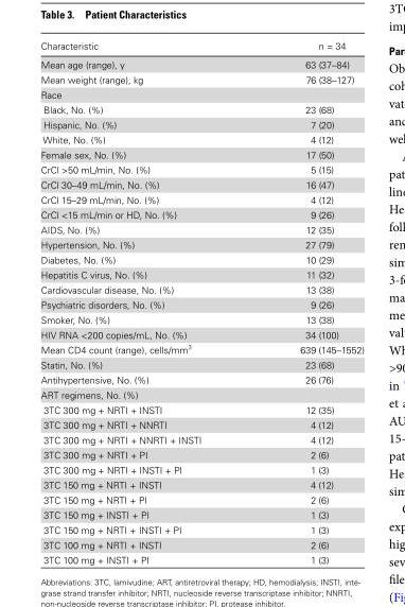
<table><thead><tr><td>Characteristic</td><td>n = 34</td></tr></thead><tbody><tr><td>Mean age (range), y</td><td>63 (37–84)</td></tr><tr><td>Mean weight (range), kg</td><td>76 (38–127)</td></tr><tr><td colspan="2">Race</td></tr><tr><td>Black, No. (%)</td><td>23 (68)</td></tr><tr><td>Hispanic, No. (%)</td><td>7 (20)</td></tr><tr><td>White, No. (%)</td><td>4 (12)</td></tr><tr><td>Female sex, No. (%)</td><td>17 (50)</td></tr><tr><td>CrCl &gt;50 mL/min, No. (%)</td><td>5 (15)</td></tr><tr><td>CrCl 30–49 mL/min, No. (%)</td><td>16 (47)</td></tr><tr><td>CrCl 15–29 mL/min, No. (%)</td><td>4 (12)</td></tr><tr><td>CrCl &lt;15 mL/min or HD, No. (%)</td><td>9 (26)</td></tr><tr><td>AIDS, No. (%)</td><td>12 (35)</td></tr><tr><td>Hypertension, No. (%)</td><td>27 (79)</td></tr><tr><td>Diabetes, No. (%)</td><td>10 (29)</td></tr><tr><td>Hepatitis C virus, No. (%)</td><td>11 (32)</td></tr><tr><td>Cardiovascular disease, No. (%)</td><td>13 (38)</td></tr><tr><td>Psychiatric disorders, No. (%)</td><td>9 (26)</td></tr><tr><td>Smoker, No. (%)</td><td>13 (38)</td></tr><tr><td>HIV RNA &lt;200 copies/mL, No. (%)</td><td>34 (100)</td></tr><tr><td>Mean CD4 count (range), cells/mm<sup>3</sup></td><td>639 (145–1552)</td></tr><tr><td>Statin, No. (%)</td><td>23 (68)</td></tr><tr><td>Antihypertensive, No. (%)</td><td>26 (76)</td></tr><tr><td colspan="2">ART regimens, No. (%)</td></tr><tr><td>3TC 300 mg + NRTI + INSTI</td><td>12 (35)</td></tr><tr><td>3TC 300 mg + NRTI + NNRTI</td><td>4 (12)</td></tr><tr><td>3TC 300 mg + NRTI + NNRTI + INSTI</td><td>4 (12)</td></tr><tr><td>3TC 300 mg + NRTI + PI</td><td>2 (6)</td></tr><tr><td>3TC 300 mg + NRTI + INSTI + PI</td><td>1 (3)</td></tr><tr><td>3TC 150 mg + NRTI + INSTI</td><td>4 (12)</td></tr><tr><td>3TC 150 mg + NRTI + PI</td><td>2 (6)</td></tr><tr><td>3TC 150 mg + INSTI + PI</td><td>1 (3)</td></tr><tr><td>3TC 150 mg + NRTI + INSTI + PI</td><td>1 (3)</td></tr><tr><td>3TC 100 mg + NRTI + INSTI</td><td>2 (6)</td></tr><tr><td>3TC 100 mg + INSTI + PI</td><td>1 (3)</td></tr></tbody></table>